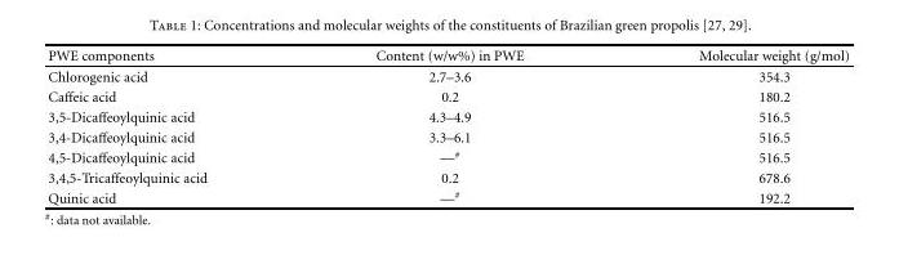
<table><thead><tr><td>PWE components</td><td>Content (w/w%) in PWE</td><td>Molecular weight (g/mol)</td></tr></thead><tbody><tr><td>Chlorogenic acid</td><td>2.7–3.6</td><td>354.3</td></tr><tr><td>Caffeic acid</td><td>0.2</td><td>180.2</td></tr><tr><td>3,5-Dicaffeoylquinic acid</td><td>4.3–4.9</td><td>516.5</td></tr><tr><td>3,4-Dicaffeoylquinic acid</td><td>3.3–6.1</td><td>516.5</td></tr><tr><td>4,5-Dicaffeoylquinic acid</td><td>—<sup>#</sup></td><td>516.5</td></tr><tr><td>3,4,5-Tricaffeoylquinic acid</td><td>0.2</td><td>678.6</td></tr><tr><td>Quinic acid</td><td>—<sup>#</sup></td><td>192.2</td></tr></tbody></table>